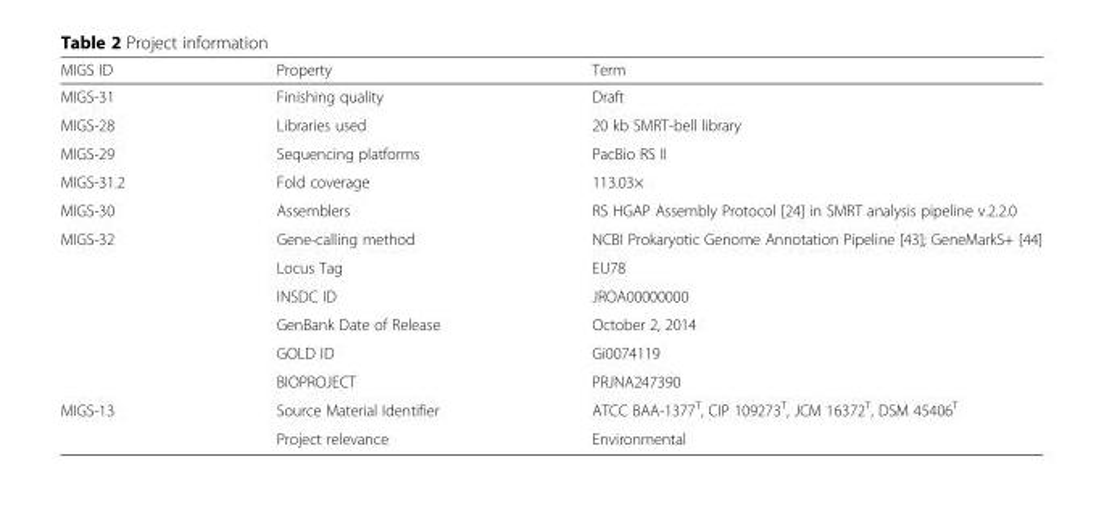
<table><thead><tr><td>MIGS ID</td><td>Property</td><td>Term</td></tr></thead><tbody><tr><td>MIGS-31</td><td>Finishing quality</td><td>Draft</td></tr><tr><td>MIGS-28</td><td>Libraries used</td><td>20 kb SMRT-bell library</td></tr><tr><td>MIGS-29</td><td>Sequencing platforms</td><td>PacBio RS II</td></tr><tr><td>MIGS-31.2</td><td>Fold coverage</td><td>113.03×</td></tr><tr><td>MIGS-30</td><td>Assemblers</td><td>RS HGAP Assembly Protocol [24] in SMRT analysis pipeline v.2.2.0</td></tr><tr><td rowspan="6">MIGS-32</td><td>Gene-calling method</td><td>NCBI Prokaryotic Genome Annotation Pipeline [43]; GeneMarkS+ [44]</td></tr><tr><td>Locus Tag</td><td>EU78</td></tr><tr><td>INSDC ID</td><td>JROA00000000</td></tr><tr><td>GenBank Date of Release</td><td>October 2, 2014</td></tr><tr><td>GOLD ID</td><td>Gi0074119</td></tr><tr><td>BIOPROJECT</td><td>PRJNA247390</td></tr><tr><td rowspan="2">MIGS-13</td><td>Source Material Identifier</td><td>ATCC BAA-1377<sup>T</sup>, CIP 109273<sup>T</sup>, JCM 16372<sup>T</sup>, DSM 45406<sup>T</sup></td></tr><tr><td>Project relevance</td><td>Environmental</td></tr></tbody></table>